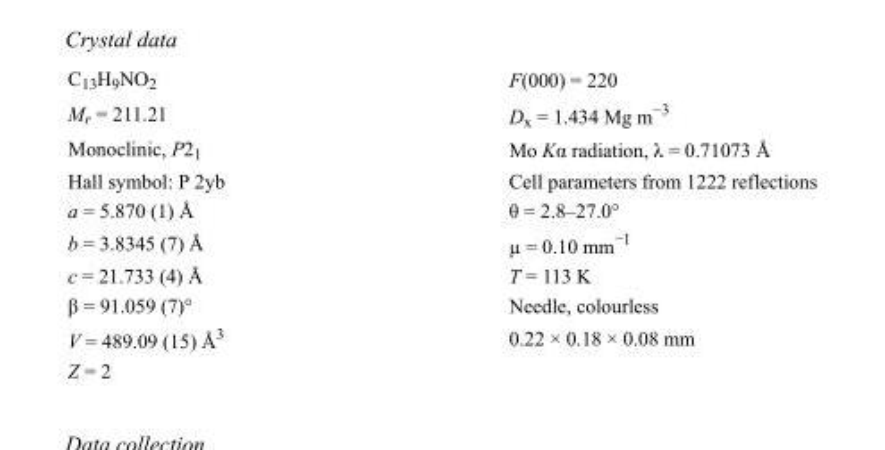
<table><tbody><tr><td>C<sub>13</sub>H<sub>9</sub>NO<sub>2</sub></td><td>F(000) = 220</td></tr><tr><td>M<sub>r</sub> = 211.21</td><td>D<sub>x</sub> = 1.434 Mg m<sup>−3</sup></td></tr><tr><td>Monoclinic, P2<sub>1</sub></td><td>Mo Kα radiation, λ = 0.71073 Å</td></tr><tr><td>Hall symbol: P 2yb</td><td>Cell parameters from 1222 reflections</td></tr><tr><td>a = 5.870 (1) Å</td><td>θ = 2.8–27.0°</td></tr><tr><td>b = 3.8345 (7) Å</td><td>µ = 0.10 mm<sup>−1</sup></td></tr><tr><td>c = 21.733 (4) Å</td><td>T = 113 K</td></tr><tr><td>β = 91.059 (7)°</td><td>Needle, colourless</td></tr><tr><td>V = 489.09 (15) Å<sup>3</sup></td><td>0.22 × 0.18 × 0.08 mm</td></tr><tr><td>Z = 2</td><td></td></tr></tbody></table>